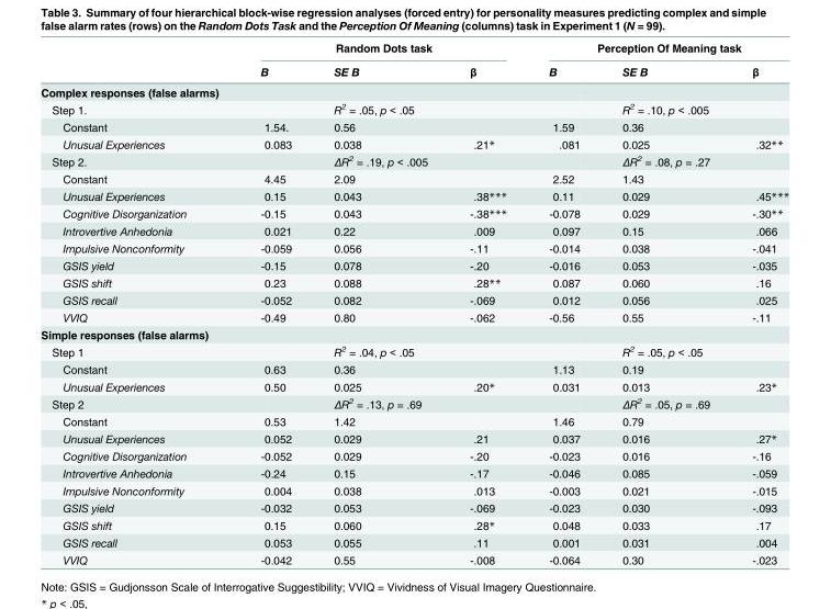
<table><thead><tr><td rowspan="2"></td><td colspan="3">Random Dots task</td><td colspan="3">Perception Of Meaning task</td></tr><tr><td>B</td><td>SE B</td><td>β</td><td>B</td><td>SE B</td><td>β</td></tr></thead><tbody><tr><td colspan="7">Complex responses (false alarms)</td></tr><tr><td>Step 1.</td><td></td><td>R<sup>2</sup> = .05, p &lt; .05</td><td></td><td></td><td>R<sup>2</sup> = .10, p &lt; .005</td><td></td></tr><tr><td>Constant</td><td>1.54.</td><td>0.56</td><td></td><td>1.59</td><td>0.36</td><td></td></tr><tr><td>Unusual Experiences</td><td>0.083</td><td>0.038</td><td>.21*</td><td>.081</td><td>0.025</td><td>.32**</td></tr><tr><td>Step 2.</td><td></td><td>ΔR<sup>2</sup> = .19, p &lt; .005</td><td></td><td></td><td>ΔR<sup>2</sup> = .08, p = .27</td><td></td></tr><tr><td>Constant</td><td>4.45</td><td>2.09</td><td></td><td>2.52</td><td>1.43</td><td></td></tr><tr><td>Unusual Experiences</td><td>0.15</td><td>0.043</td><td>.38***</td><td>0.11</td><td>0.029</td><td>.45***</td></tr><tr><td>Cognitive Disorganization</td><td>-0.15</td><td>0.043</td><td>-.38***</td><td>-0.078</td><td>0.029</td><td>-.30**</td></tr><tr><td>Introvertive Anhedonia</td><td>0.021</td><td>0.22</td><td>.009</td><td>0.097</td><td>0.15</td><td>.066</td></tr><tr><td>Impulsive Nonconformity</td><td>-0.059</td><td>0.056</td><td>-.11</td><td>-0.014</td><td>0.038</td><td>-.041</td></tr><tr><td>GSIS yield</td><td>-0.15</td><td>0.078</td><td>-.20</td><td>-0.016</td><td>0.053</td><td>-.035</td></tr><tr><td>GSIS shift</td><td>0.23</td><td>0.088</td><td>.28**</td><td>0.087</td><td>0.060</td><td>.16</td></tr><tr><td>GSIS recall</td><td>-0.052</td><td>0.082</td><td>-.069</td><td>0.012</td><td>0.056</td><td>.025</td></tr><tr><td>VVIQ</td><td>-0.49</td><td>0.80</td><td>-.062</td><td>-0.56</td><td>0.55</td><td>-.11</td></tr><tr><td colspan="7">Simple responses (false alarms)</td></tr><tr><td>Step 1</td><td></td><td>R<sup>2</sup> = .04, p &lt; .05</td><td></td><td></td><td>R<sup>2</sup> = .05, p &lt; .05</td><td></td></tr><tr><td>Constant</td><td>0.63</td><td>0.36</td><td></td><td>1.13</td><td>0.19</td><td></td></tr><tr><td>Unusual Experiences</td><td>0.50</td><td>0.025</td><td>.20*</td><td>0.031</td><td>0.013</td><td>.23*</td></tr><tr><td>Step 2</td><td></td><td>ΔR<sup>2</sup> = .13, p = .69</td><td></td><td></td><td>ΔR<sup>2</sup> = .05, p = .69</td><td></td></tr><tr><td>Constant</td><td>0.53</td><td>1.42</td><td></td><td>1.46</td><td>0.79</td><td></td></tr><tr><td>Unusual Experiences</td><td>0.052</td><td>0.029</td><td>.21</td><td>0.037</td><td>0.016</td><td>.27*</td></tr><tr><td>Cognitive Disorganization</td><td>-0.052</td><td>0.029</td><td>-.20</td><td>-0.023</td><td>0.016</td><td>-.16</td></tr><tr><td>Introvertive Anhedonia</td><td>-0.24</td><td>0.15</td><td>-.17</td><td>-0.046</td><td>0.085</td><td>-.059</td></tr><tr><td>Impulsive Nonconformity</td><td>0.004</td><td>0.038</td><td>.013</td><td>-0.003</td><td>0.021</td><td>-.015</td></tr><tr><td>GSIS yield</td><td>-0.032</td><td>0.053</td><td>-.069</td><td>-0.023</td><td>0.030</td><td>-.093</td></tr><tr><td>GSIS shift</td><td>0.15</td><td>0.060</td><td>.28*</td><td>0.048</td><td>0.033</td><td>.17</td></tr><tr><td>GSIS recall</td><td>0.053</td><td>0.055</td><td>.11</td><td>0.001</td><td>0.031</td><td>.004</td></tr><tr><td>VVIQ</td><td>-0.042</td><td>0.55</td><td>-.008</td><td>-0.064</td><td>0.30</td><td>-.023</td></tr></tbody></table>